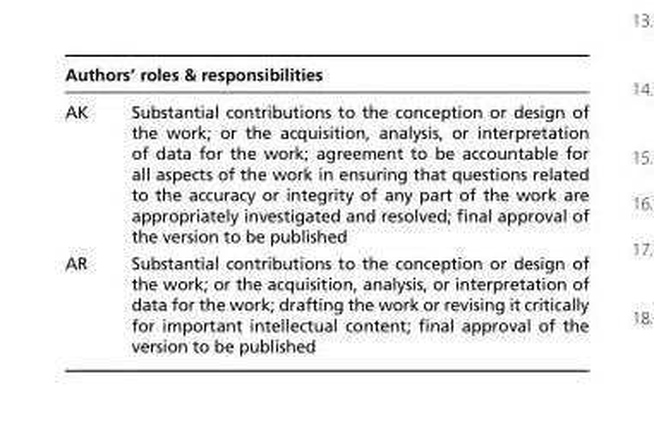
<table><thead><tr><td colspan="2">Authors’ roles &amp; responsibilities</td></tr><tr><td>AK</td><td>Substantial contributions to the conception or design of the work; or the acquisition, analysis, or interpretation of data for the work; agreement to be accountable for all aspects of the work in ensuring that questions related to the accuracy or integrity of any part of the work are appropriately investigated and resolved; final approval of the version to be published</td></tr></thead><tbody><tr><td>AR</td><td>Substantial contributions to the conception or design of the work; or the acquisition, analysis, or interpretation of data for the work; drafting the work or revising it critically for important intellectual content; final approval of the version to be published</td></tr></tbody></table>